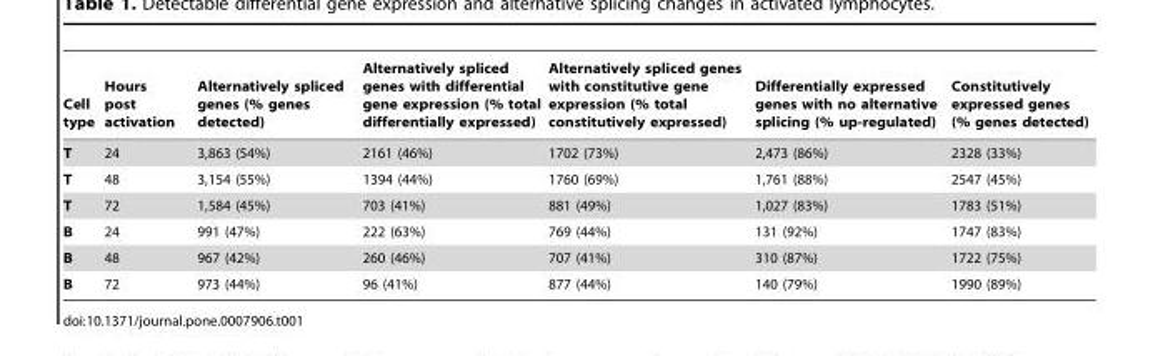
<table><thead><tr><td>Cell type</td><td>Hours post activation</td><td>Alternatively spliced genes (% genes detected)</td><td>Alternatively spliced genes with differential gene expression (% total differentially expressed)</td><td>Alternatively spliced genes with constitutive gene expression (% total constitutively expressed)</td><td>Differentially expressed genes with no alternative splicing (% up-regulated)</td><td>Constitutively expressed genes (% genes detected)</td></tr></thead><tbody><tr><td>T</td><td>24</td><td>3,863 (54%)</td><td>2161 (46%)</td><td>1702 (73%)</td><td>2,473 (86%)</td><td>2328 (33%)</td></tr><tr><td>T</td><td>48</td><td>3,154 (55%)</td><td>1394 (44%)</td><td>1760 (69%)</td><td>1,761 (88%)</td><td>2547 (45%)</td></tr><tr><td>T</td><td>72</td><td>1,584 (45%)</td><td>703 (41%)</td><td>881 (49%)</td><td>1,027 (83%)</td><td>1783 (51%)</td></tr><tr><td>B</td><td>24</td><td>991 (47%)</td><td>222 (63%)</td><td>769 (44%)</td><td>131 (92%)</td><td>1747 (83%)</td></tr><tr><td>B</td><td>48</td><td>967 (42%)</td><td>260 (46%)</td><td>707 (41%)</td><td>310 (87%)</td><td>1722 (75%)</td></tr><tr><td>B</td><td>72</td><td>973 (44%)</td><td>96 (41%)</td><td>877 (44%)</td><td>140 (79%)</td><td>1990 (89%)</td></tr></tbody></table>